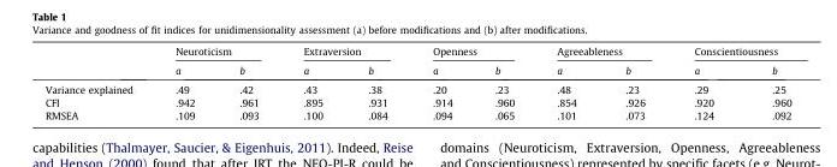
<table><thead><tr><td rowspan="2"></td><td colspan="2">Neuroticism</td><td colspan="2">Extraversion</td><td colspan="2">Openness</td><td colspan="2">Agreeableness</td><td colspan="2">Conscientiousness</td></tr><tr><td>a</td><td>b</td><td>a</td><td>b</td><td>a</td><td>b</td><td>a</td><td>b</td><td>a</td><td>b</td></tr></thead><tbody><tr><td>Variance explained</td><td>.49</td><td>.42</td><td>.43</td><td>.38</td><td>.20</td><td>.23</td><td>.48</td><td>.23</td><td>.29</td><td>.25</td></tr><tr><td>CFI</td><td>.942</td><td>.961</td><td>.895</td><td>.931</td><td>.914</td><td>.960</td><td>.854</td><td>.926</td><td>.920</td><td>.960</td></tr><tr><td>RMSEA</td><td>.109</td><td>.093</td><td>.100</td><td>.084</td><td>.094</td><td>.065</td><td>.101</td><td>.073</td><td>.124</td><td>.092</td></tr></tbody></table>